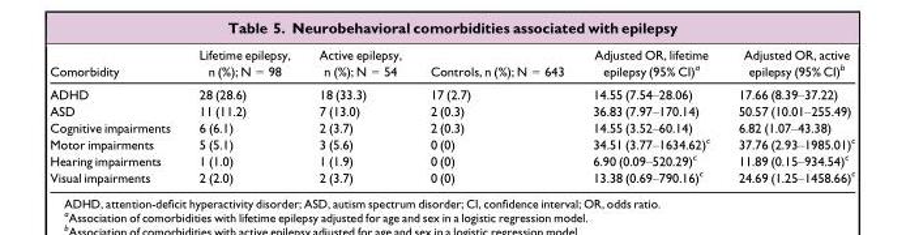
<table><thead><tr><td>Comorbidity</td><td>Lifetime epilepsy, n (%); N = 98</td><td>Active epilepsy, n (%); N = 54</td><td>Controls, n (%); N = 643</td><td>Adjusted OR, lifetime epilepsy (95% CI)<sup>a</sup></td><td>Adjusted OR, active epilepsy (95% CI)<sup>b</sup></td></tr></thead><tbody><tr><td>ADHD</td><td>28 (28.6)</td><td>18 (33.3)</td><td>17 (2.7)</td><td>14.55 (7.54–28.06)</td><td>17.66 (8.39–37.22)</td></tr><tr><td>ASD</td><td>11 (11.2)</td><td>7 (13.0)</td><td>2 (0.3)</td><td>36.83 (7.97–170.14)</td><td>50.57 (10.01–255.49)</td></tr><tr><td>Cognitive impairments</td><td>6 (6.1)</td><td>2 (3.7)</td><td>2 (0.3)</td><td>14.55 (3.52–60.14)</td><td>6.82 (1.07–43.38)</td></tr><tr><td>Motor impairments</td><td>5 (5.1)</td><td>3 (5.6)</td><td>0 (0)</td><td>34.51 (3.77–1634.62)<sup>c</sup></td><td>37.76 (2.93–1985.01)<sup>c</sup></td></tr><tr><td>Hearing impairments</td><td>1 (1.0)</td><td>1 (1.9)</td><td>0 (0)</td><td>6.90 (0.09–520.29)<sup>c</sup></td><td>11.89 (0.15–934.54)<sup>c</sup></td></tr><tr><td>Visual impairments</td><td>2 (2.0)</td><td>2 (3.7)</td><td>0 (0)</td><td>13.38 (0.69–790.16)<sup>c</sup></td><td>24.69 (1.25–1458.66)<sup>c</sup></td></tr></tbody></table>